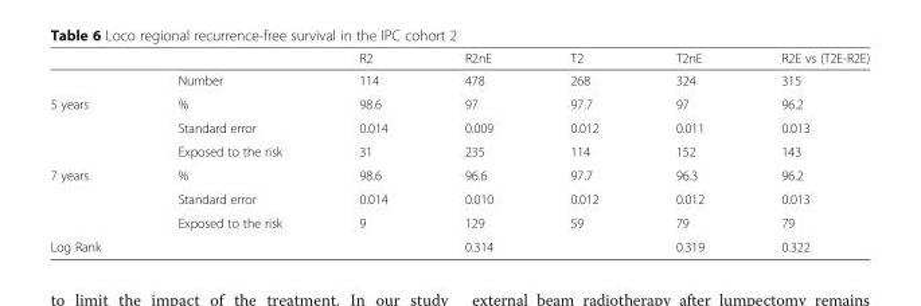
<table><thead><tr><td></td><td></td><td>R2</td><td>R2nE</td><td>T2</td><td>T2nE</td><td>R2E vs (T2E-R2E)</td></tr></thead><tbody><tr><td></td><td>Number</td><td>114</td><td>478</td><td>268</td><td>324</td><td>315</td></tr><tr><td rowspan="3">5 years</td><td>%</td><td>98.6</td><td>97</td><td>97.7</td><td>97</td><td>96.2</td></tr><tr><td>Standard error</td><td>0.014</td><td>0.009</td><td>0.012</td><td>0.011</td><td>0.013</td></tr><tr><td>Exposed to the risk</td><td>31</td><td>235</td><td>114</td><td>152</td><td>143</td></tr><tr><td rowspan="3">7 years</td><td>%</td><td>98.6</td><td>96.6</td><td>97.7</td><td>96.3</td><td>96.2</td></tr><tr><td>Standard error</td><td>0.014</td><td>0.010</td><td>0.012</td><td>0.012</td><td>0.013</td></tr><tr><td>Exposed to the risk</td><td>9</td><td>129</td><td>59</td><td>79</td><td>79</td></tr><tr><td>Log Rank</td><td></td><td></td><td>0.314</td><td></td><td>0.319</td><td>0.322</td></tr></tbody></table>